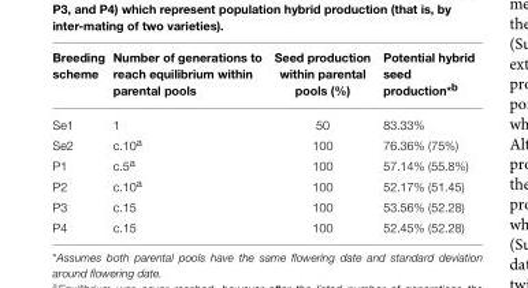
<table><thead><tr><td>Breeding scheme</td><td>Number of generations to reach equilibrium within parental pools</td><td>Seed production within parental pools (%)</td><td>Potential hybrid seed production<sup>*b</sup></td></tr></thead><tbody><tr><td>Se1</td><td>1</td><td>50</td><td>83.33%</td></tr><tr><td>Se2</td><td>c.10<sup>a</sup></td><td>100</td><td>76.36% (75%)</td></tr><tr><td>P1</td><td>c.5<sup>a</sup></td><td>100</td><td>57.14% (55.8%)</td></tr><tr><td>P2</td><td>c.10<sup>a</sup></td><td>100</td><td>52.17% (51.45)</td></tr><tr><td>P3</td><td>c.15</td><td>100</td><td>53.56% (52.28)</td></tr><tr><td>P4</td><td>c.15</td><td>100</td><td>52.45% (52.28)</td></tr></tbody></table>